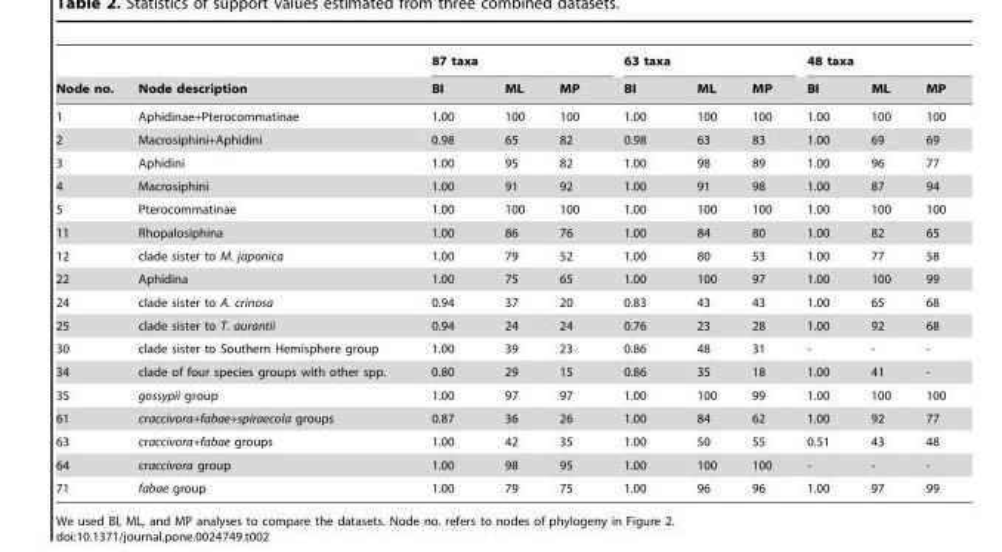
<table><thead><tr><td rowspan="2">Node no.</td><td rowspan="2">Node description</td><td colspan="3">87 taxa</td><td colspan="3">63 taxa</td><td colspan="3">48 taxa</td></tr><tr><td>BI</td><td>ML</td><td>MP</td><td>BI</td><td>ML</td><td>MP</td><td>BI</td><td>ML</td><td>MP</td></tr></thead><tbody><tr><td>1</td><td>Aphidinae+Pterocommatinae</td><td>1.00</td><td>100</td><td>100</td><td>1.00</td><td>100</td><td>100</td><td>1.00</td><td>100</td><td>100</td></tr><tr><td>2</td><td>Macrosiphini+Aphidini</td><td>0.98</td><td>65</td><td>82</td><td>0.98</td><td>63</td><td>83</td><td>1.00</td><td>69</td><td>69</td></tr><tr><td>3</td><td>Aphidini</td><td>1.00</td><td>95</td><td>82</td><td>1.00</td><td>98</td><td>89</td><td>1.00</td><td>96</td><td>77</td></tr><tr><td>4</td><td>Macrosiphini</td><td>1.00</td><td>91</td><td>92</td><td>1.00</td><td>91</td><td>98</td><td>1.00</td><td>87</td><td>94</td></tr><tr><td>5</td><td>Pterocommatinae</td><td>1.00</td><td>100</td><td>100</td><td>1.00</td><td>100</td><td>100</td><td>1.00</td><td>100</td><td>100</td></tr><tr><td>11</td><td>Rhopalosiphina</td><td>1.00</td><td>86</td><td>76</td><td>1.00</td><td>84</td><td>80</td><td>1.00</td><td>82</td><td>65</td></tr><tr><td>12</td><td>clade sister to M. japonica</td><td>1.00</td><td>79</td><td>52</td><td>1.00</td><td>80</td><td>53</td><td>1.00</td><td>77</td><td>58</td></tr><tr><td>22</td><td>Aphidina</td><td>1.00</td><td>75</td><td>65</td><td>1.00</td><td>100</td><td>97</td><td>1.00</td><td>100</td><td>99</td></tr><tr><td>24</td><td>clade sister to A. crinosa</td><td>0.94</td><td>37</td><td>20</td><td>0.83</td><td>43</td><td>43</td><td>1.00</td><td>65</td><td>68</td></tr><tr><td>25</td><td>clade sister to T. aurantii</td><td>0.94</td><td>24</td><td>24</td><td>0.76</td><td>23</td><td>28</td><td>1.00</td><td>92</td><td>68</td></tr><tr><td>30</td><td>clade sister to Southern Hemisphere group</td><td>1.00</td><td>39</td><td>23</td><td>0.86</td><td>48</td><td>31</td><td>-</td><td>-</td><td>-</td></tr><tr><td>34</td><td>clade of four species groups with other spp.</td><td>0.80</td><td>29</td><td>15</td><td>0.86</td><td>35</td><td>18</td><td>1.00</td><td>41</td><td>-</td></tr><tr><td>35</td><td>gossypii group</td><td>1.00</td><td>97</td><td>97</td><td>1.00</td><td>100</td><td>99</td><td>1.00</td><td>100</td><td>100</td></tr><tr><td>61</td><td>craccivora+fabae+spiraecola groups</td><td>0.87</td><td>36</td><td>26</td><td>1.00</td><td>84</td><td>62</td><td>1.00</td><td>92</td><td>77</td></tr><tr><td>63</td><td>craccivora+fabae groups</td><td>1.00</td><td>42</td><td>35</td><td>1.00</td><td>50</td><td>55</td><td>0.51</td><td>43</td><td>48</td></tr><tr><td>64</td><td>craccivora group</td><td>1.00</td><td>98</td><td>95</td><td>1.00</td><td>100</td><td>100</td><td>-</td><td>-</td><td>-</td></tr><tr><td>71</td><td>fabae group</td><td>1.00</td><td>79</td><td>75</td><td>1.00</td><td>96</td><td>96</td><td>1.00</td><td>97</td><td>99</td></tr></tbody></table>